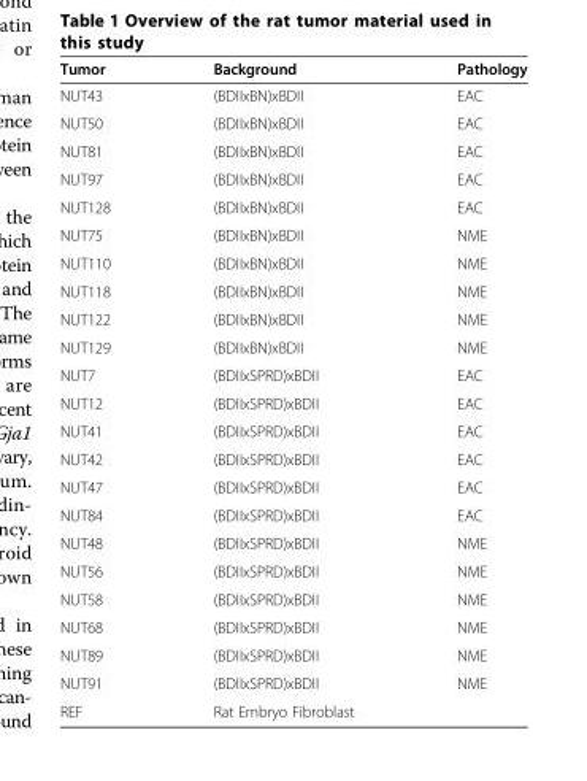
<table><thead><tr><td>Tumor</td><td>Background</td><td>Pathology</td></tr></thead><tbody><tr><td>NUT43</td><td>(BDIIxBN)xBDII</td><td>EAC</td></tr><tr><td>NUT50</td><td>(BDIIxBN)xBDII</td><td>EAC</td></tr><tr><td>NUT81</td><td>(BDIIxBN)xBDII</td><td>EAC</td></tr><tr><td>NUT97</td><td>(BDIIxBN)xBDII</td><td>EAC</td></tr><tr><td>NUT128</td><td>(BDIIxBN)xBDII</td><td>EAC</td></tr><tr><td>NUT75</td><td>(BDIIxBN)xBDII</td><td>NME</td></tr><tr><td>NUT110</td><td>(BDIIxBN)xBDII</td><td>NME</td></tr><tr><td>NUT118</td><td>(BDIIxBN)xBDII</td><td>NME</td></tr><tr><td>NUT122</td><td>(BDIIxBN)xBDII</td><td>NME</td></tr><tr><td>NUT129</td><td>(BDIIxBN)xBDII</td><td>NME</td></tr><tr><td>NUT7</td><td>(BDIIxSPRD)xBDII</td><td>EAC</td></tr><tr><td>NUT12</td><td>(BDIIxSPRD)xBDII</td><td>EAC</td></tr><tr><td>NUT41</td><td>(BDIIxSPRD)xBDII</td><td>EAC</td></tr><tr><td>NUT42</td><td>(BDIIxSPRD)xBDII</td><td>EAC</td></tr><tr><td>NUT47</td><td>(BDIIxSPRD)xBDII</td><td>EAC</td></tr><tr><td>NUT84</td><td>(BDIIxSPRD)xBDII</td><td>EAC</td></tr><tr><td>NUT48</td><td>(BDIIxSPRD)xBDII</td><td>NME</td></tr><tr><td>NUT56</td><td>(BDIIxSPRD)xBDII</td><td>NME</td></tr><tr><td>NUT58</td><td>(BDIIxSPRD)xBDII</td><td>NME</td></tr><tr><td>NUT68</td><td>(BDIIxSPRD)xBDII</td><td>NME</td></tr><tr><td>NUT89</td><td>(BDIIxSPRD)xBDII</td><td>NME</td></tr><tr><td>NUT91</td><td>(BDIIxSPRD)xBDII</td><td>NME</td></tr><tr><td>REF</td><td>Rat Embryo Fibroblast</td><td></td></tr></tbody></table>